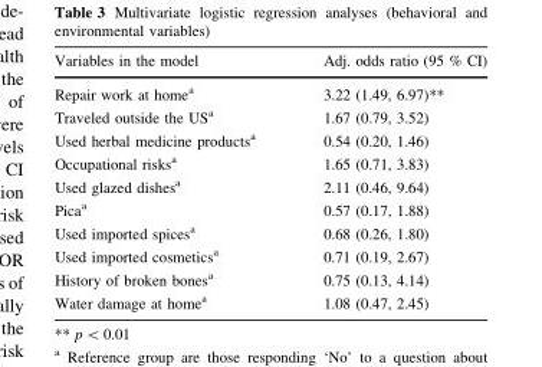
<table><thead><tr><td>Variables in the model</td><td>Adj. odds ratio (95 % CI)</td></tr></thead><tbody><tr><td>Repair work at home<sup>a</sup></td><td>3.22 (1.49, 6.97)**</td></tr><tr><td>Traveled outside the US<sup>a</sup></td><td>1.67 (0.79, 3.52)</td></tr><tr><td>Used herbal medicine products<sup>a</sup></td><td>0.54 (0.20, 1.46)</td></tr><tr><td>Occupational risks<sup>a</sup></td><td>1.65 (0.71, 3.83)</td></tr><tr><td>Used glazed dishes<sup>a</sup></td><td>2.11 (0.46, 9.64)</td></tr><tr><td>Pica<sup>a</sup></td><td>0.57 (0.17, 1.88)</td></tr><tr><td>Used imported spices<sup>a</sup></td><td>0.68 (0.26, 1.80)</td></tr><tr><td>Used imported cosmetics<sup>a</sup></td><td>0.71 (0.19, 2.67)</td></tr><tr><td>History of broken bones<sup>a</sup></td><td>0.75 (0.13, 4.14)</td></tr><tr><td>Water damage at home<sup>a</sup></td><td>1.08 (0.47, 2.45)</td></tr></tbody></table>